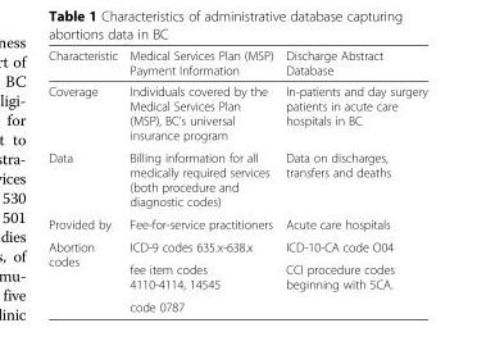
<table><thead><tr><td>Characteristic</td><td>Medical Services Plan (MSP) Payment Information</td><td>Discharge Abstract Database</td></tr></thead><tbody><tr><td>Coverage</td><td>Individuals covered by the Medical Services Plan (MSP), BC’s universal insurance program</td><td>In-patients and day surgery patients in acute care hospitals in BC</td></tr><tr><td>Data</td><td>Billing information for all medically required services (both procedure and diagnostic codes)</td><td>Data on discharges, transfers and deaths</td></tr><tr><td>Provided by</td><td>Fee-for-service practitioners</td><td>Acute care hospitals</td></tr><tr><td rowspan="3">Abortion codes</td><td>ICD-9 codes 635.x-638.x</td><td>ICD-10-CA code O04</td></tr><tr><td>fee item codes 4110-4114, 14545</td><td rowspan="2">CCI procedure codes beginning with 5CA.</td></tr><tr><td>code 0787</td></tr></tbody></table>